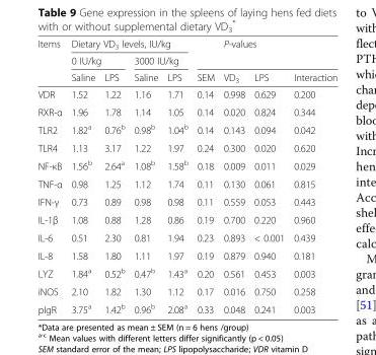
<table><thead><tr><td rowspan="3">Items</td><td colspan="4">Dietary VD<sub>3</sub> levels, IU/kg</td><td rowspan="3">SEM</td><td rowspan="2" colspan="3">P-values</td></tr><tr><td colspan="2">0 IU/kg</td><td colspan="2">3000 IU/kg</td></tr><tr><td>Saline</td><td>LPS</td><td>Saline</td><td>LPS</td><td>VD<sub>3</sub></td><td>LPS</td><td>Interaction</td></tr></thead><tbody><tr><td>VDR</td><td>1.52</td><td>1.22</td><td>1.16</td><td>1.71</td><td>0.14</td><td>0.998</td><td>0.629</td><td>0.200</td></tr><tr><td>RXR-α</td><td>1.96</td><td>1.78</td><td>1.14</td><td>1.05</td><td>0.14</td><td>0.020</td><td>0.824</td><td>0.344</td></tr><tr><td>TLR2</td><td>1.82<sup>a</sup></td><td>0.76<sup>b</sup></td><td>0.98<sup>b</sup></td><td>1.04<sup>b</sup></td><td>0.14</td><td>0.143</td><td>0.094</td><td>0.042</td></tr><tr><td>TLR4</td><td>1.13</td><td>3.17</td><td>1.22</td><td>1.97</td><td>0.24</td><td>0.300</td><td>0.020</td><td>0.620</td></tr><tr><td>NF-κB</td><td>1.56<sup>b</sup></td><td>2.64<sup>a</sup></td><td>1.08<sup>b</sup></td><td>1.58<sup>b</sup></td><td>0.18</td><td>0.009</td><td>0.011</td><td>0.029</td></tr><tr><td>TNF-α</td><td>0.98</td><td>1.25</td><td>1.12</td><td>1.74</td><td>0.11</td><td>0.130</td><td>0.061</td><td>0.815</td></tr><tr><td>IFN-γ</td><td>0.73</td><td>0.89</td><td>0.98</td><td>0.98</td><td>0.11</td><td>0.559</td><td>0.053</td><td>0.443</td></tr><tr><td>IL-1β</td><td>1.08</td><td>0.88</td><td>1.28</td><td>0.86</td><td>0.19</td><td>0.700</td><td>0.220</td><td>0.960</td></tr><tr><td>IL-6</td><td>0.51</td><td>2.30</td><td>0.81</td><td>1.94</td><td>0.23</td><td>0.893</td><td>&lt; 0.001</td><td>0.439</td></tr><tr><td>IL-8</td><td>1.58</td><td>1.80</td><td>1.11</td><td>1.97</td><td>0.19</td><td>0.879</td><td>0.940</td><td>0.181</td></tr><tr><td>LYZ</td><td>1.84<sup>a</sup></td><td>0.52<sup>b</sup></td><td>0.47<sup>b</sup></td><td>1.43<sup>a</sup></td><td>0.20</td><td>0.561</td><td>0.453</td><td>0.003</td></tr><tr><td>iNOS</td><td>2.10</td><td>1.82</td><td>1.30</td><td>1.12</td><td>0.17</td><td>0.016</td><td>0.750</td><td>0.258</td></tr><tr><td>pIgR</td><td>3.75<sup>a</sup></td><td>1.42<sup>b</sup></td><td>0.96<sup>b</sup></td><td>2.08<sup>a</sup></td><td>0.33</td><td>0.048</td><td>0.241</td><td>0.003</td></tr></tbody></table>